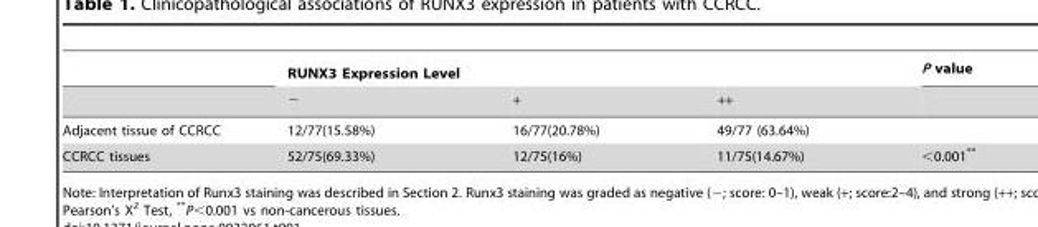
<table><thead><tr><td rowspan="2"></td><td colspan="3">RUNX3 Expression Level</td><td rowspan="2">P value</td></tr><tr><td>−</td><td>+</td><td>++</td></tr></thead><tbody><tr><td>Adjacent tissue of CCRCC</td><td>12/77(15.58%)</td><td>16/77(20.78%)</td><td>49/77 (63.64%)</td><td></td></tr><tr><td>CCRCC tissues</td><td>52/75(69.33%)</td><td>12/75(16%)</td><td>11/75(14.67%)</td><td>&lt;0.001**</td></tr></tbody></table>